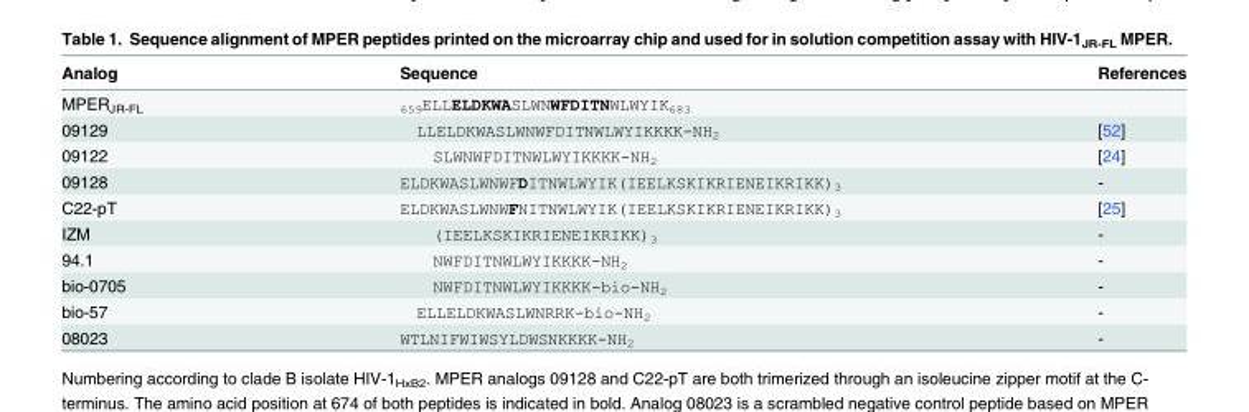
<table><thead><tr><td>Analog</td><td>Sequence</td><td>References</td></tr></thead><tbody><tr><td>MPER<sub>JR-FL</sub></td><td><sub>659</sub>ELLELDKWASLWNWFDITNWLWYIK<sub>683</sub></td><td></td></tr><tr><td>09129</td><td>LLELDKWASLWNWFDITNWLWYIKKKK-NH<sub>2</sub></td><td>[52]</td></tr><tr><td>09122</td><td>SLWNWFDITNWLWYIKKKK-NH<sub>2</sub></td><td>[24]</td></tr><tr><td>09128</td><td>ELDKWASLWNWFDITNWLWYIK(IEELKSKIKRIENEIKRIKK)<sub>3</sub></td><td>-</td></tr><tr><td>C22-pT</td><td>ELDKWASLWNWFNITNWLWYIK(IEELKSKIKRIENEIKRIKK)<sub>3</sub></td><td>[25]</td></tr><tr><td>IZM</td><td>(IEELKSKIKRIENEIKRIKK)<sub>3</sub></td><td>-</td></tr><tr><td>94.1</td><td>NWFDITNWLWYIKKKK-NH<sub>2</sub></td><td>-</td></tr><tr><td>bio-0705</td><td>NWFDITNWLWYIKKKK-bio-NH<sub>2</sub></td><td>-</td></tr><tr><td>bio-57</td><td>ELLELDKWASLWNRRK-bio-NH<sub>2</sub></td><td>-</td></tr><tr><td>08023</td><td>WTLNIFWIWSYLDWSNKKKK-NH<sub>2</sub></td><td>-</td></tr></tbody></table>